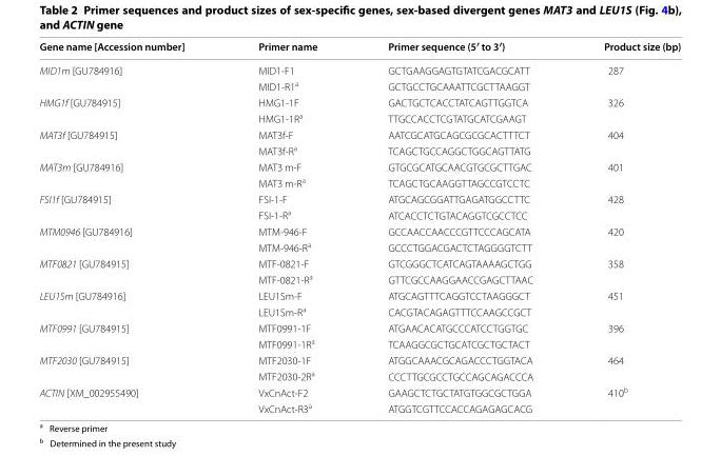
<table><thead><tr><td>Gene name [Accession number]</td><td>Primer name</td><td>Primer sequence (5′ to 3′)</td><td>Product size (bp)</td></tr></thead><tbody><tr><td rowspan="2">MID1m [GU784916]</td><td>MID1‑F1</td><td>GCTGAAGGAGTGTATCGACGCATT</td><td rowspan="2">287</td></tr><tr><td>MID1‑R1<sup>a</sup></td><td>GCTGCCTGCAAATTCGCTTAAGGT</td></tr><tr><td rowspan="2">HMG1f [GU784915]</td><td>HMG1‑1F</td><td>GACTGCTCACCTATCAGTTGGTCA</td><td rowspan="2">326</td></tr><tr><td>HMG1‑1R<sup>a</sup></td><td>TTGCCACCTCGTATGCATCGAAGT</td></tr><tr><td rowspan="2">MAT3f [GU784915]</td><td>MAT3f‑F</td><td>AATCGCATGCAGCGCGCACTTTCT</td><td rowspan="2">404</td></tr><tr><td>MAT3f‑R<sup>a</sup></td><td>TCAGCTGCCAGGCTGGCAGTTATG</td></tr><tr><td rowspan="2">MAT3m [GU784916]</td><td>MAT3 m‑F</td><td>GTGCGCATGCAACGTGCGCTTGAC</td><td rowspan="2">401</td></tr><tr><td>MAT3 m‑R<sup>a</sup></td><td>TCAGCTGCAAGGTTAGCCGTCCTC</td></tr><tr><td rowspan="2">FSI1f [GU784915]</td><td>FSI‑1‑F</td><td>ATGCAGCGGATTGAGATGGCCTTC</td><td rowspan="2">428</td></tr><tr><td>FSI‑1‑R<sup>a</sup></td><td>ATCACCTCTGTACAGGTCGCCTCC</td></tr><tr><td rowspan="2">MTM0946 [GU784916]</td><td>MTM‑946‑F</td><td>GCCAACCAACCCGTTCCCAGCATA</td><td rowspan="2">420</td></tr><tr><td>MTM‑946‑R<sup>a</sup></td><td>GCCCTGGACGACTCTAGGGGTCTT</td></tr><tr><td rowspan="2">MTF0821 [GU784915]</td><td>MTF‑0821‑F</td><td>GTCGGGCTCATCAGTAAAAGCTGG</td><td rowspan="2">358</td></tr><tr><td>MTF‑0821‑R<sup>a</sup></td><td>GTTCGCCAAGGAACCGAGCTTAAC</td></tr><tr><td rowspan="2">LEU1Sm [GU784916]</td><td>LEU1Sm‑F</td><td>ATGCAGTTTCAGGTCCTAAGGGCT</td><td rowspan="2">451</td></tr><tr><td>LEU1Sm‑R<sup>a</sup></td><td>CACGTACAGAGTTTCCAAGCCGCT</td></tr><tr><td rowspan="2">MTF0991 [GU784915]</td><td>MTF0991‑1F</td><td>ATGAACACATGCCCATCCTGGTGC</td><td rowspan="2">396</td></tr><tr><td>MTF0991‑1R<sup>a</sup></td><td>TCAAGGCGCTGCATCGCTGCTACT</td></tr><tr><td rowspan="2">MTF2030 [GU784915]</td><td>MTF2030‑1F</td><td>ATGGCAAACGCAGACCCTGGTACA</td><td rowspan="2">464</td></tr><tr><td>MTF2030‑2R<sup>a</sup></td><td>CCCTTGCGCCTGCCAGCAGACCCA</td></tr><tr><td rowspan="2">ACTIN [XM_002955490]</td><td>VxCnAct‑F2</td><td>GAAGCTCTGCTATGTGGCGCTGGA</td><td rowspan="2">410<sup>b</sup></td></tr><tr><td>VxCnAct‑R3<sup>a</sup></td><td>ATGGTCGTTCCACCAGAGAGCACG</td></tr></tbody></table>